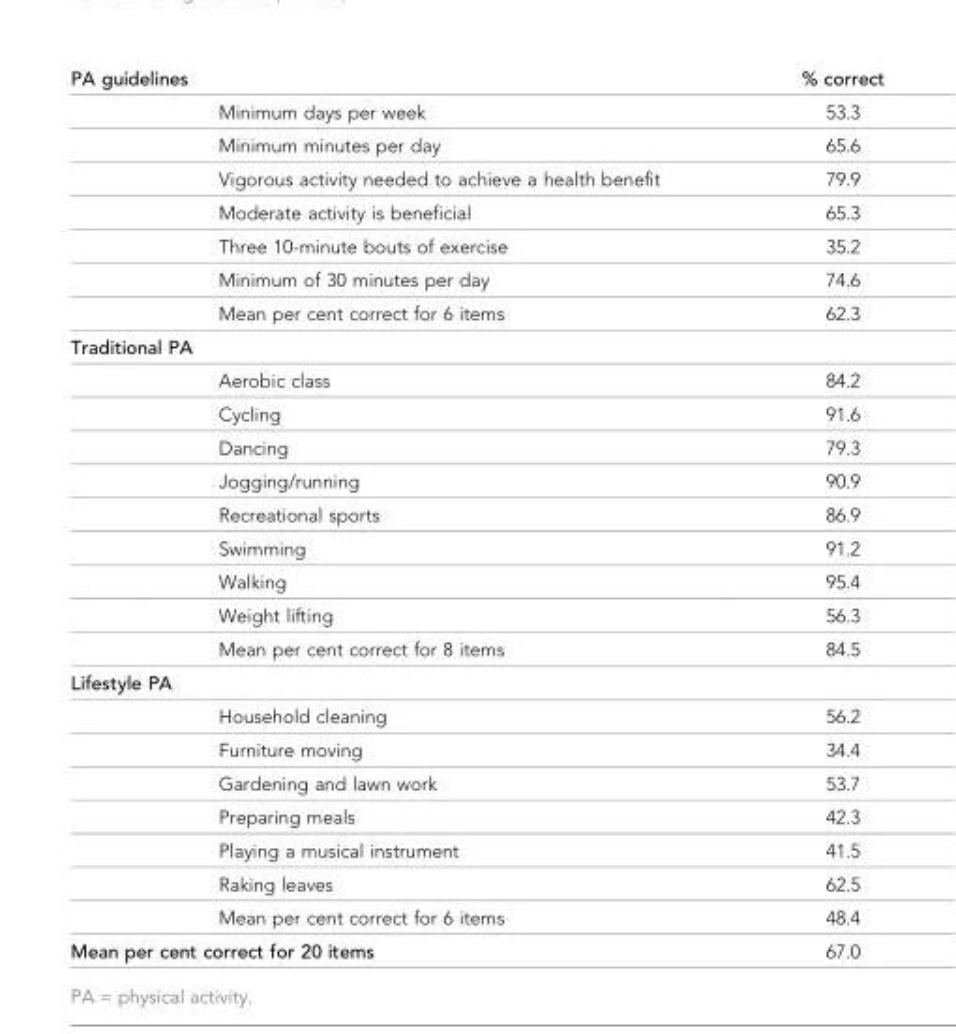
<table><tbody><tr><td rowspan="8">PA guidelines</td><td></td><td>% correct</td></tr><tr><td>Minimum days per week</td><td>53.3</td></tr><tr><td>Minimum minutes per day</td><td>65.6</td></tr><tr><td>Vigorous activity needed to achieve a health benefit</td><td>79.9</td></tr><tr><td>Moderate activity is beneficial</td><td>65.3</td></tr><tr><td>Three 10-minute bouts of exercise</td><td>35.2</td></tr><tr><td>Minimum of 30 minutes per day</td><td>74.6</td></tr><tr><td>Mean per cent correct for 6 items</td><td>62.3</td></tr><tr><td colspan="3">Traditional PA</td></tr><tr><td></td><td>Aerobic class</td><td>84.2</td></tr><tr><td></td><td>Cycling</td><td>91.6</td></tr><tr><td></td><td>Dancing</td><td>79.3</td></tr><tr><td></td><td>Jogging/running</td><td>90.9</td></tr><tr><td></td><td>Recreational sports</td><td>86.9</td></tr><tr><td></td><td>Swimming</td><td>91.2</td></tr><tr><td></td><td>Walking</td><td>95.4</td></tr><tr><td></td><td>Weight lifting</td><td>56.3</td></tr><tr><td></td><td>Mean per cent correct for 8 items</td><td>84.5</td></tr><tr><td colspan="3">Lifestyle PA</td></tr><tr><td></td><td>Household cleaning</td><td>56.2</td></tr><tr><td></td><td>Furniture moving</td><td>34.4</td></tr><tr><td></td><td>Gardening and lawn work</td><td>53.7</td></tr><tr><td></td><td>Preparing meals</td><td>42.3</td></tr><tr><td></td><td>Playing a musical instrument</td><td>41.5</td></tr><tr><td></td><td>Raking leaves</td><td>62.5</td></tr><tr><td></td><td>Mean per cent correct for 6 items</td><td>48.4</td></tr><tr><td colspan="2">Mean per cent correct for 20 items</td><td>67.0</td></tr></tbody></table>